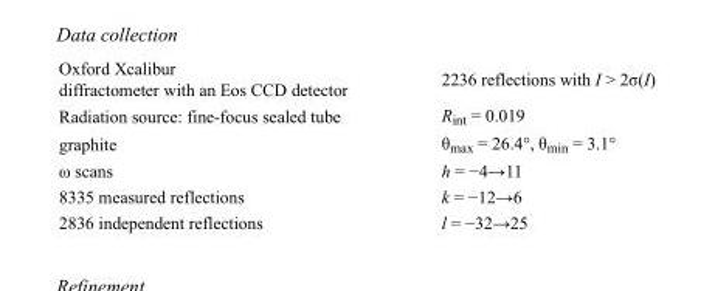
<table><tbody><tr><td>Oxford Xcalibur diffractometer with an Eos CCD detector</td><td>2236 reflections with I &gt; 2σ(I)</td></tr><tr><td>Radiation source: fine-focus sealed tube</td><td>R<sub>int</sub> = 0.019</td></tr><tr><td>graphite</td><td>θ<sub>max</sub> = 26.4°, θ<sub>min</sub> = 3.1°</td></tr><tr><td>ω scans</td><td>h = −4→11</td></tr><tr><td>8335 measured reflections</td><td>k = −12→6</td></tr><tr><td>2836 independent reflections</td><td>l = −32→25</td></tr></tbody></table>